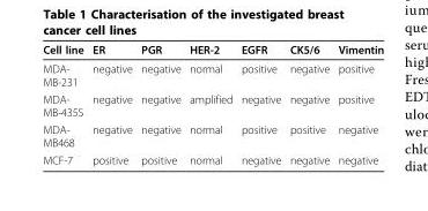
<table><thead><tr><td>Cell line</td><td>ER</td><td>PGR</td><td>HER-2</td><td>EGFR</td><td>CK5/6</td><td>Vimentin</td></tr></thead><tbody><tr><td>MDA- MB-231</td><td>negative</td><td>negative</td><td>normal</td><td>positive</td><td>negative</td><td>positive</td></tr><tr><td>MDA- MB-435S</td><td>negative</td><td>negative</td><td>amplified</td><td>negative</td><td>negative</td><td>positive</td></tr><tr><td>MDA- MB468</td><td>negative</td><td>negative</td><td>normal</td><td>positive</td><td>positive</td><td>negative</td></tr><tr><td>MCF-7</td><td>positive</td><td>positive</td><td>normal</td><td>negative</td><td>negative</td><td>negative</td></tr></tbody></table>